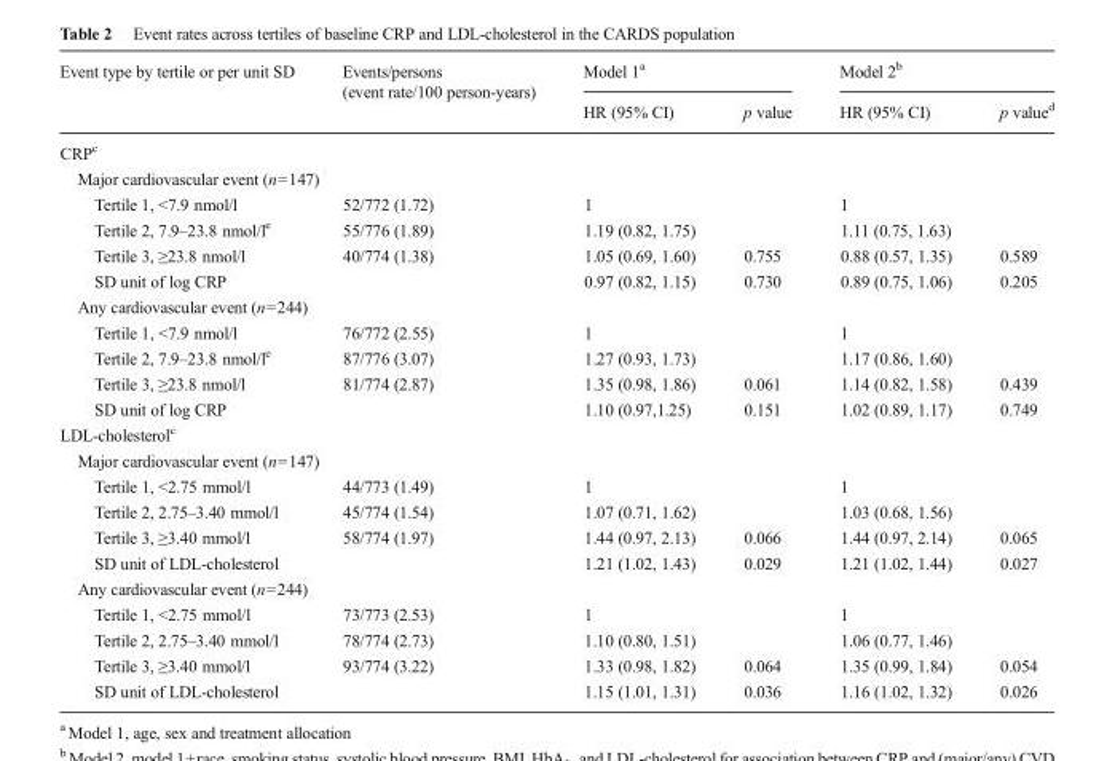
<table><thead><tr><td rowspan="2">Event type by tertile or per unit SD</td><td rowspan="2">Events/persons (event rate/100 person-years)</td><td colspan="2">Model 1<sup>a</sup></td><td colspan="2">Model 2<sup>b</sup></td></tr><tr><td>HR (95% CI)</td><td>p value</td><td>HR (95% CI)</td><td>p value<sup>d</sup></td></tr></thead><tbody><tr><td colspan="6">CRP<sup>c</sup></td></tr><tr><td colspan="6">Major cardiovascular event (n=147)</td></tr><tr><td>Tertile 1, &lt;7.9 nmol/l</td><td>52/772 (1.72)</td><td>1</td><td></td><td>1</td><td></td></tr><tr><td>Tertile 2, 7.9–23.8 nmol/l<sup>e</sup></td><td>55/776 (1.89)</td><td>1.19 (0.82, 1.75)</td><td></td><td>1.11 (0.75, 1.63)</td><td></td></tr><tr><td>Tertile 3, ≥23.8 nmol/l</td><td>40/774 (1.38)</td><td>1.05 (0.69, 1.60)</td><td>0.755</td><td>0.88 (0.57, 1.35)</td><td>0.589</td></tr><tr><td>SD unit of log CRP</td><td></td><td>0.97 (0.82, 1.15)</td><td>0.730</td><td>0.89 (0.75, 1.06)</td><td>0.205</td></tr><tr><td colspan="6">Any cardiovascular event (n=244)</td></tr><tr><td>Tertile 1, &lt;7.9 nmol/l</td><td>76/772 (2.55)</td><td>1</td><td></td><td>1</td><td></td></tr><tr><td>Tertile 2, 7.9–23.8 nmol/l<sup>e</sup></td><td>87/776 (3.07)</td><td>1.27 (0.93, 1.73)</td><td></td><td>1.17 (0.86, 1.60)</td><td></td></tr><tr><td>Tertile 3, ≥23.8 nmol/l</td><td>81/774 (2.87)</td><td>1.35 (0.98, 1.86)</td><td>0.061</td><td>1.14 (0.82, 1.58)</td><td>0.439</td></tr><tr><td>SD unit of log CRP</td><td></td><td>1.10 (0.97,1.25)</td><td>0.151</td><td>1.02 (0.89, 1.17)</td><td>0.749</td></tr><tr><td colspan="6">LDL-cholesterol<sup>c</sup></td></tr><tr><td colspan="6">Major cardiovascular event (n=147)</td></tr><tr><td>Tertile 1, &lt;2.75 mmol/l</td><td>44/773 (1.49)</td><td>1</td><td></td><td>1</td><td></td></tr><tr><td>Tertile 2, 2.75–3.40 mmol/l</td><td>45/774 (1.54)</td><td>1.07 (0.71, 1.62)</td><td></td><td>1.03 (0.68, 1.56)</td><td></td></tr><tr><td>Tertile 3, ≥3.40 mmol/l</td><td>58/774 (1.97)</td><td>1.44 (0.97, 2.13)</td><td>0.066</td><td>1.44 (0.97, 2.14)</td><td>0.065</td></tr><tr><td>SD unit of LDL-cholesterol</td><td></td><td>1.21 (1.02, 1.43)</td><td>0.029</td><td>1.21 (1.02, 1.44)</td><td>0.027</td></tr><tr><td colspan="6">Any cardiovascular event (n=244)</td></tr><tr><td>Tertile 1, &lt;2.75 mmol/l</td><td>73/773 (2.53)</td><td>1</td><td></td><td>1</td><td></td></tr><tr><td>Tertile 2, 2.75–3.40 mmol/l</td><td>78/774 (2.73)</td><td>1.10 (0.80, 1.51)</td><td></td><td>1.06 (0.77, 1.46)</td><td></td></tr><tr><td>Tertile 3, ≥3.40 mmol/l</td><td>93/774 (3.22)</td><td>1.33 (0.98, 1.82)</td><td>0.064</td><td>1.35 (0.99, 1.84)</td><td>0.054</td></tr><tr><td>SD unit of LDL-cholesterol</td><td></td><td>1.15 (1.01, 1.31)</td><td>0.036</td><td>1.16 (1.02, 1.32)</td><td>0.026</td></tr></tbody></table>